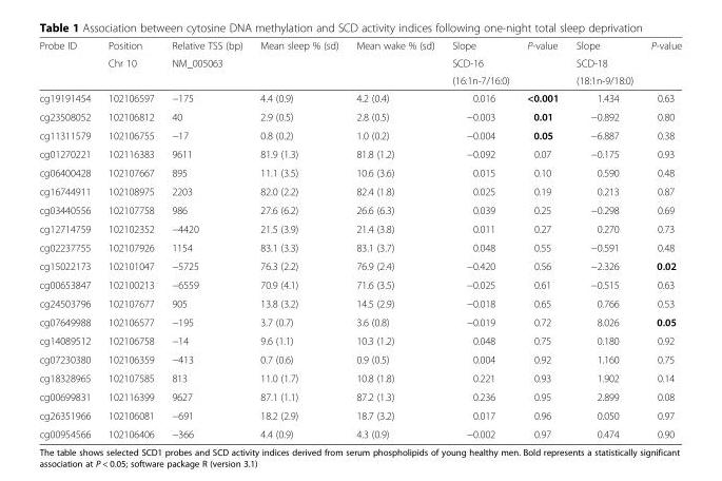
<table><thead><tr><td rowspan="3">Probe ID</td><td rowspan="3">Position Chr 10</td><td rowspan="3">Relative TSS (bp) NM_005063</td><td rowspan="3">Mean sleep % (sd)</td><td rowspan="3">Mean wake % (sd)</td><td rowspan="3">Slope SCD-16 (16:1n-7/16:0)</td><td rowspan="3">P-value</td><td rowspan="3">Slope SCD-18 (18:1n-9/18:0)</td><td rowspan="3">P-value</td></tr><tr></tr><tr></tr></thead><tbody><tr><td>cg19191454</td><td>102106597</td><td>−175</td><td>4.4 (0.9)</td><td>4.2 (0.4)</td><td>0.016</td><td>&lt;0.001</td><td>1.434</td><td>0.63</td></tr><tr><td>cg23508052</td><td>102106812</td><td>40</td><td>2.9 (0.5)</td><td>2.8 (0.5)</td><td>−0.003</td><td>0.01</td><td>−0.892</td><td>0.80</td></tr><tr><td>cg11311579</td><td>102106755</td><td>−17</td><td>0.8 (0.2)</td><td>1.0 (0.2)</td><td>−0.004</td><td>0.05</td><td>−6.887</td><td>0.38</td></tr><tr><td>cg01270221</td><td>102116383</td><td>9611</td><td>81.9 (1.3)</td><td>81.8 (1.2)</td><td>−0.092</td><td>0.07</td><td>−0.175</td><td>0.93</td></tr><tr><td>cg06400428</td><td>102107667</td><td>895</td><td>11.1 (3.5)</td><td>10.6 (3.6)</td><td>0.015</td><td>0.10</td><td>0.590</td><td>0.48</td></tr><tr><td>cg16744911</td><td>102108975</td><td>2203</td><td>82.0 (2.2)</td><td>82.4 (1.8)</td><td>0.025</td><td>0.19</td><td>0.213</td><td>0.87</td></tr><tr><td>cg03440556</td><td>102107758</td><td>986</td><td>27.6 (6.2)</td><td>26.6 (6.3)</td><td>0.039</td><td>0.25</td><td>−0.298</td><td>0.69</td></tr><tr><td>cg12714759</td><td>102102352</td><td>−4420</td><td>21.5 (3.9)</td><td>21.4 (3.8)</td><td>0.011</td><td>0.27</td><td>0.270</td><td>0.73</td></tr><tr><td>cg02237755</td><td>102107926</td><td>1154</td><td>83.1 (3.3)</td><td>83.1 (3.7)</td><td>0.048</td><td>0.55</td><td>−0.591</td><td>0.48</td></tr><tr><td>cg15022173</td><td>102101047</td><td>−5725</td><td>76.3 (2.2)</td><td>76.9 (2.4)</td><td>−0.420</td><td>0.56</td><td>−2.326</td><td>0.02</td></tr><tr><td>cg00653847</td><td>102100213</td><td>−6559</td><td>70.9 (4.1)</td><td>71.6 (3.5)</td><td>−0.025</td><td>0.61</td><td>−0.515</td><td>0.63</td></tr><tr><td>cg24503796</td><td>102107677</td><td>905</td><td>13.8 (3.2)</td><td>14.5 (2.9)</td><td>−0.018</td><td>0.65</td><td>0.766</td><td>0.53</td></tr><tr><td>cg07649988</td><td>102106577</td><td>−195</td><td>3.7 (0.7)</td><td>3.6 (0.8)</td><td>−0.019</td><td>0.72</td><td>8.026</td><td>0.05</td></tr><tr><td>cg14089512</td><td>102106758</td><td>−14</td><td>9.6 (1.1)</td><td>10.3 (1.2)</td><td>0.048</td><td>0.75</td><td>0.180</td><td>0.92</td></tr><tr><td>cg07230380</td><td>102106359</td><td>−413</td><td>0.7 (0.6)</td><td>0.9 (0.5)</td><td>0.004</td><td>0.92</td><td>1.160</td><td>0.75</td></tr><tr><td>cg18328965</td><td>102107585</td><td>813</td><td>11.0 (1.7)</td><td>10.8 (1.8)</td><td>0.221</td><td>0.93</td><td>1.902</td><td>0.14</td></tr><tr><td>cg00699831</td><td>102116399</td><td>9627</td><td>87.1 (1.1)</td><td>87.2 (1.3)</td><td>0.236</td><td>0.95</td><td>2.899</td><td>0.08</td></tr><tr><td>cg26351966</td><td>102106081</td><td>−691</td><td>18.2 (2.9)</td><td>18.7 (3.2)</td><td>0.017</td><td>0.96</td><td>0.050</td><td>0.97</td></tr><tr><td>cg00954566</td><td>102106406</td><td>−366</td><td>4.4 (0.9)</td><td>4.3 (0.9)</td><td>−0.002</td><td>0.97</td><td>0.474</td><td>0.90</td></tr></tbody></table>